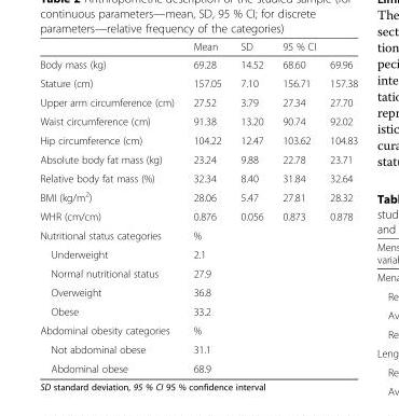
<table><thead><tr><td rowspan="2">Body mass (kg)</td><td rowspan="2">Mean 69.28</td><td rowspan="2">SD 14.52</td><td colspan="2">95 % CI</td></tr><tr><td>68.60</td><td>69.96</td></tr></thead><tbody><tr><td>Stature (cm)</td><td>157.05</td><td>7.10</td><td>156.71</td><td>157.38</td></tr><tr><td>Upper arm circumference (cm)</td><td>27.52</td><td>3.79</td><td>27.34</td><td>27.70</td></tr><tr><td>Waist circumference (cm)</td><td>91.38</td><td>13.20</td><td>90.74</td><td>92.02</td></tr><tr><td>Hip circumference (cm)</td><td>104.22</td><td>12.47</td><td>103.62</td><td>104.83</td></tr><tr><td>Absolute body fat mass (kg)</td><td>23.24</td><td>9.88</td><td>22.78</td><td>23.71</td></tr><tr><td>Relative body fat mass (%)</td><td>32.34</td><td>8.40</td><td>31.84</td><td>32.64</td></tr><tr><td>BMI (kg/m<sup>2</sup>)</td><td>28.06</td><td>5.47</td><td>27.81</td><td>28.32</td></tr><tr><td>WHR (cm/cm)</td><td>0.876</td><td>0.056</td><td>0.873</td><td>0.878</td></tr><tr><td>Nutritional status categories</td><td>%</td><td></td><td></td><td></td></tr><tr><td>Underweight</td><td>2.1</td><td></td><td></td><td></td></tr><tr><td>Normal nutritional status</td><td>27.9</td><td></td><td></td><td></td></tr><tr><td>Overweight</td><td>36.8</td><td></td><td></td><td></td></tr><tr><td>Obese</td><td>33.2</td><td></td><td></td><td></td></tr><tr><td>Abdominal obesity categories</td><td>%</td><td></td><td></td><td></td></tr><tr><td>Not abdominal obese</td><td>31.1</td><td></td><td></td><td></td></tr><tr><td>Abdominal obese</td><td>68.9</td><td></td><td></td><td></td></tr></tbody></table>